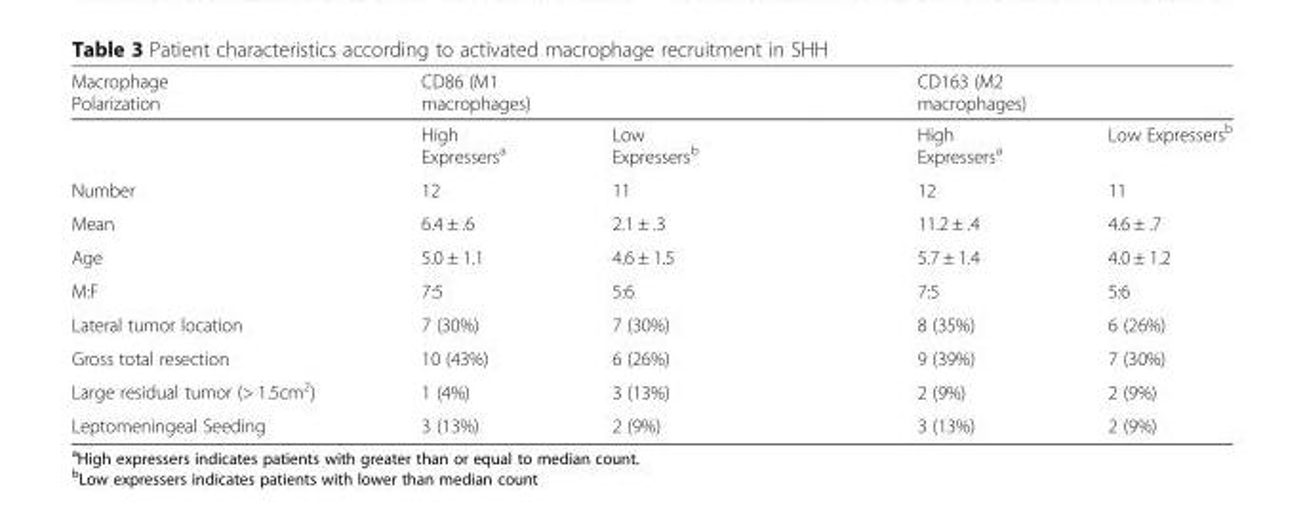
<table><thead><tr><td rowspan="2">Macrophage Polarization</td><td colspan="2">CD86 (M1 macrophages)</td><td colspan="2">CD163 (M2 macrophages)</td></tr><tr><td>High Expressers<sup>a</sup></td><td>Low Expressers<sup>b</sup></td><td>High Expressers<sup>a</sup></td><td>Low Expressers<sup>b</sup></td></tr></thead><tbody><tr><td>Number</td><td>12</td><td>11</td><td>12</td><td>11</td></tr><tr><td>Mean</td><td>6.4 ± .6</td><td>2.1 ± .3</td><td>11.2 ± .4</td><td>4.6 ± .7</td></tr><tr><td>Age</td><td>5.0 ± 1.1</td><td>4.6 ± 1.5</td><td>5.7 ± 1.4</td><td>4.0 ± 1.2</td></tr><tr><td>M:F</td><td>7:5</td><td>5:6</td><td>7:5</td><td>5:6</td></tr><tr><td>Lateral tumor location</td><td>7 (30%)</td><td>7 (30%)</td><td>8 (35%)</td><td>6 (26%)</td></tr><tr><td>Gross total resection</td><td>10 (43%)</td><td>6 (26%)</td><td>9 (39%)</td><td>7 (30%)</td></tr><tr><td>Large residual tumor (&gt; 1.5cm<sup>2</sup>)</td><td>1 (4%)</td><td>3 (13%)</td><td>2 (9%)</td><td>2 (9%)</td></tr><tr><td>Leptomeningeal Seeding</td><td>3 (13%)</td><td>2 (9%)</td><td>3 (13%)</td><td>2 (9%)</td></tr></tbody></table>